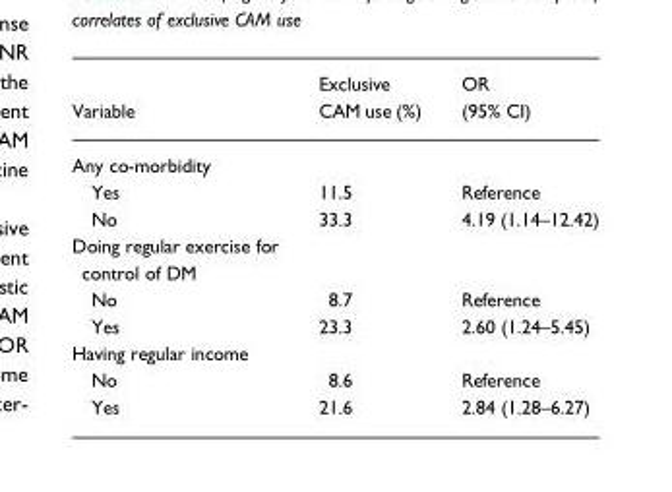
<table><thead><tr><td>Variable</td><td>Exclusive CAM use (%)</td><td>OR (95% CI)</td></tr></thead><tbody><tr><td colspan="3">Any co-morbidity</td></tr><tr><td>Yes</td><td>11.5</td><td>Reference</td></tr><tr><td>No</td><td>33.3</td><td>4.19 (1.14–12.42)</td></tr><tr><td colspan="3">Doing regular exercise for control of DM</td></tr><tr><td>No</td><td>8.7</td><td>Reference</td></tr><tr><td>Yes</td><td>23.3</td><td>2.60 (1.24–5.45)</td></tr><tr><td colspan="3">Having regular income</td></tr><tr><td>No</td><td>8.6</td><td>Reference</td></tr><tr><td>Yes</td><td>21.6</td><td>2.84 (1.28–6.27)</td></tr></tbody></table>